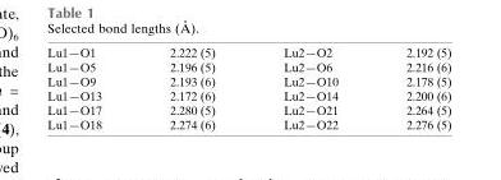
<table><tbody><tr><td>Lu1—O1</td><td>2.222 (5)</td><td>Lu2—O2</td><td>2.192 (5)</td></tr><tr><td>Lu1—O5</td><td>2.196 (5)</td><td>Lu2—O6</td><td>2.216 (6)</td></tr><tr><td>Lu1—O9</td><td>2.193 (6)</td><td>Lu2—O10</td><td>2.178 (5)</td></tr><tr><td>Lu1—O13</td><td>2.172 (6)</td><td>Lu2—O14</td><td>2.200 (6)</td></tr><tr><td>Lu1—O17</td><td>2.280 (5)</td><td>Lu2—O21</td><td>2.264 (5)</td></tr><tr><td>Lu1—O18</td><td>2.274 (6)</td><td>Lu2—O22</td><td>2.276 (5)</td></tr></tbody></table>